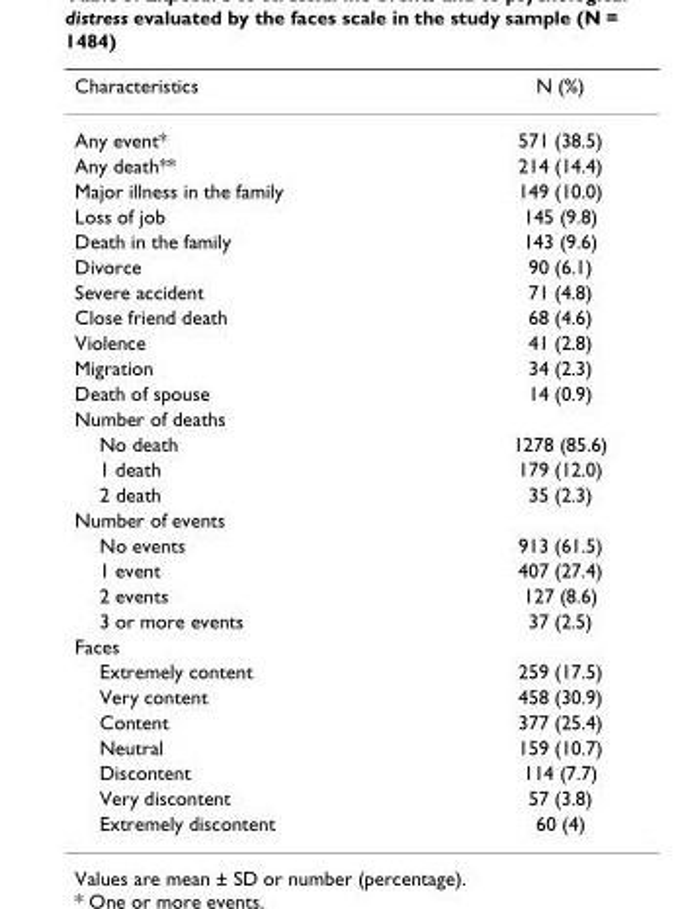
<table><thead><tr><td>Characteristics</td><td>N (%)</td></tr></thead><tbody><tr><td>Any event*</td><td>571 (38.5)</td></tr><tr><td>Any death**</td><td>214 (14.4)</td></tr><tr><td>Major illness in the family</td><td>149 (10.0)</td></tr><tr><td>Loss of job</td><td>145 (9.8)</td></tr><tr><td>Death in the family</td><td>143 (9.6)</td></tr><tr><td>Divorce</td><td>90 (6.1)</td></tr><tr><td>Severe accident</td><td>71 (4.8)</td></tr><tr><td>Close friend death</td><td>68 (4.6)</td></tr><tr><td>Violence</td><td>41 (2.8)</td></tr><tr><td>Migration</td><td>34 (2.3)</td></tr><tr><td>Death of spouse</td><td>14 (0.9)</td></tr><tr><td colspan="2">Number of deaths</td></tr><tr><td>No death</td><td>1278 (85.6)</td></tr><tr><td>1 death</td><td>179 (12.0)</td></tr><tr><td>2 death</td><td>35 (2.3)</td></tr><tr><td colspan="2">Number of events</td></tr><tr><td>No events</td><td>913 (61.5)</td></tr><tr><td>1 event</td><td>407 (27.4)</td></tr><tr><td>2 events</td><td>127 (8.6)</td></tr><tr><td>3 or more events</td><td>37 (2.5)</td></tr><tr><td colspan="2">Faces</td></tr><tr><td>Extremely content</td><td>259 (17.5)</td></tr><tr><td>Very content</td><td>458 (30.9)</td></tr><tr><td>Content</td><td>377 (25.4)</td></tr><tr><td>Neutral</td><td>159 (10.7)</td></tr><tr><td>Discontent</td><td>114 (7.7)</td></tr><tr><td>Very discontent</td><td>57 (3.8)</td></tr><tr><td>Extremely discontent</td><td>60 (4)</td></tr></tbody></table>